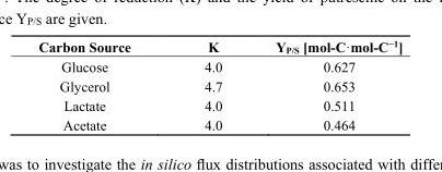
<table><thead><tr><td>Carbon Source</td><td>Κ</td><td>Y<sub>P/S</sub> [mol-C·mol-C<sup>−1</sup>]</td></tr></thead><tbody><tr><td>Glucose</td><td>4.0</td><td>0.627</td></tr><tr><td>Glycerol</td><td>4.7</td><td>0.653</td></tr><tr><td>Lactate</td><td>4.0</td><td>0.511</td></tr><tr><td>Acetate</td><td>4.0</td><td>0.464</td></tr></tbody></table>